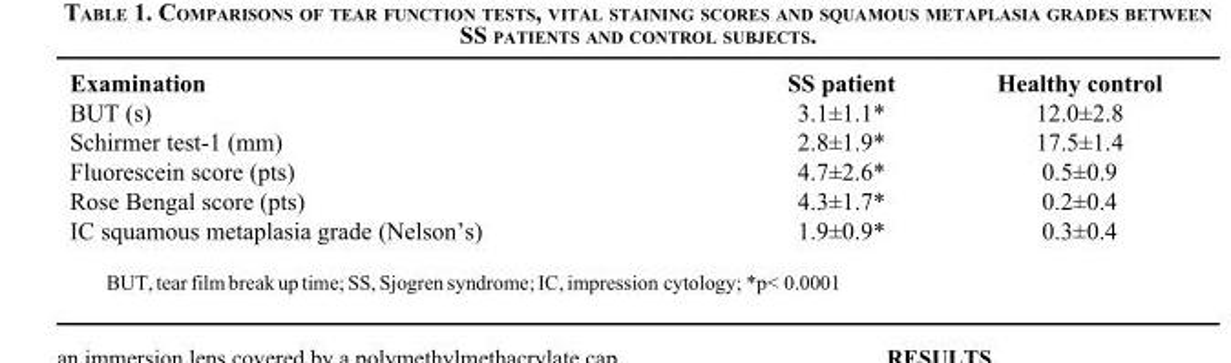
<table><thead><tr><td>Examination</td><td>SS patient</td><td>Healthy control</td></tr></thead><tbody><tr><td>BUT (s)</td><td>3.1±1.1*</td><td>12.0±2.8</td></tr><tr><td>Schirmer test-1 (mm)</td><td>2.8±1.9*</td><td>17.5±1.4</td></tr><tr><td>Fluorescein score (pts)</td><td>4.7±2.6*</td><td>0.5±0.9</td></tr><tr><td>Rose Bengal score (pts)</td><td>4.3±1.7*</td><td>0.2±0.4</td></tr><tr><td>IC squamous metaplasia grade (Nelson’s)</td><td>1.9±0.9*</td><td>0.3±0.4</td></tr><tr><td colspan="3">BUT, tear film break up time; SS, Sjogren syndrome; IC, impression cytology; *p&lt; 0.0001</td></tr></tbody></table>